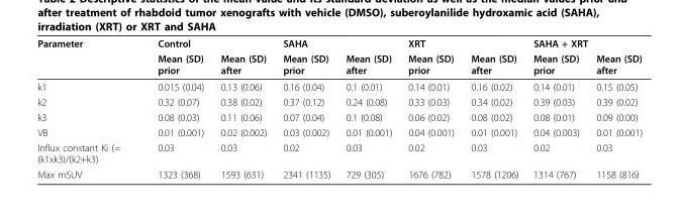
<table><thead><tr><td rowspan="2">Parameter</td><td colspan="2">Control</td><td colspan="2">SAHA</td><td colspan="2">XRT</td><td colspan="2">SAHA + XRT</td></tr><tr><td>Mean (SD) prior</td><td>Mean (SD) after</td><td>Mean (SD) prior</td><td>Mean (SD) after</td><td>Mean (SD) prior</td><td>Mean (SD) after</td><td>Mean (SD) prior</td><td>Mean (SD) after</td></tr></thead><tbody><tr><td>k1</td><td>0.015 (0.04)</td><td>0.13 (0.06)</td><td>0.16 (0.04)</td><td>0.1 (0.01)</td><td>0.14 (0.01)</td><td>0.16 (0.02)</td><td>0.14 (0.01)</td><td>0.15 (0.05)</td></tr><tr><td>k2</td><td>0.32 (0.07)</td><td>0.38 (0.02)</td><td>0.37 (0.12)</td><td>0.24 (0.08)</td><td>0.33 (0.03)</td><td>0.34 (0.02)</td><td>0.39 (0.03)</td><td>0.39 (0.02)</td></tr><tr><td>k3</td><td>0.08 (0.03)</td><td>0.11 (0.06)</td><td>0.07 (0.04)</td><td>0.1 (0.08)</td><td>0.06 (0.02)</td><td>0.08 (0.02)</td><td>0.08 (0.01)</td><td>0.09 (0.00)</td></tr><tr><td>VB</td><td>0.01 (0.001)</td><td>0.02 (0.002)</td><td>0.03 (0.002)</td><td>0.01 (0.001)</td><td>0.04 (0.001)</td><td>0.01 (0.001)</td><td>0.04 (0.003)</td><td>0.01 (0.001)</td></tr><tr><td>Influx constant Ki (= (k1xk3)/(k2+k3)</td><td>0.03</td><td>0.03</td><td>0.02</td><td>0.03</td><td>0.02</td><td>0.03</td><td>0.02</td><td>0.03</td></tr><tr><td>Max mSUV</td><td>1323 (368)</td><td>1593 (631)</td><td>2341 (1135)</td><td>729 (305)</td><td>1676 (782)</td><td>1578 (1206)</td><td>1314 (767)</td><td>1158 (816)</td></tr></tbody></table>